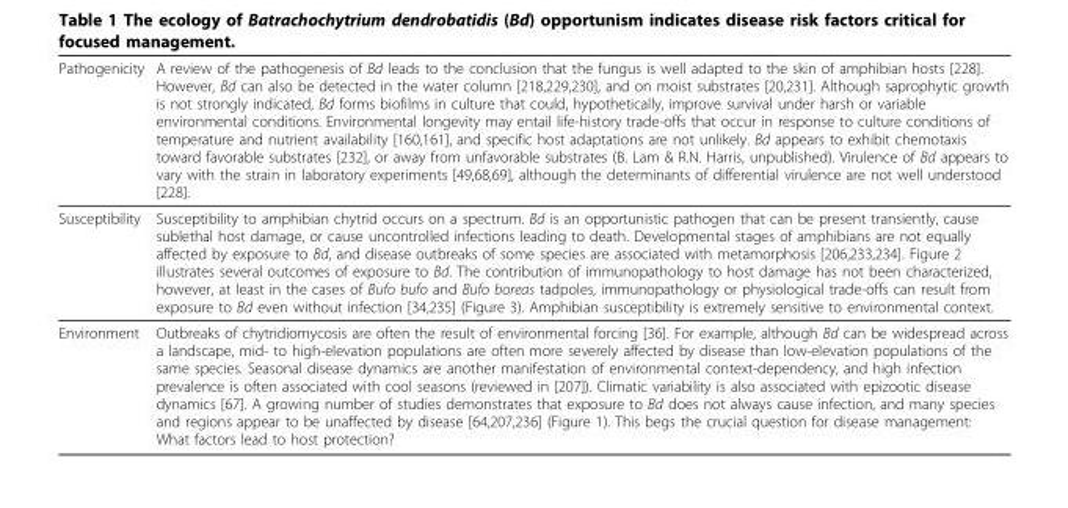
<table><thead><tr><td>Pathogenicity</td><td>A review of the pathogenesis of Bd leads to the conclusion that the fungus is well adapted to the skin of amphibian hosts [228]. However, Bd can also be detected in the water column [218,229,230], and on moist substrates [20,231]. Although saprophytic growth is not strongly indicated, Bd forms biofilms in culture that could, hypothetically, improve survival under harsh or variable environmental conditions. Environmental longevity may entail life-history trade-offs that occur in response to culture conditions of temperature and nutrient availability [160,161], and specific host adaptations are not unlikely. Bd appears to exhibit chemotaxis toward favorable substrates [232], or away from unfavorable substrates (B. Lam &amp; R.N. Harris, unpublished). Virulence of Bd appears to vary with the strain in laboratory experiments [49,68,69], although the determinants of differential virulence are not well understood [228].</td></tr></thead><tbody><tr><td>Susceptibility</td><td>Susceptibility to amphibian chytrid occurs on a spectrum. Bd is an opportunistic pathogen that can be present transiently, cause sublethal host damage, or cause uncontrolled infections leading to death. Developmental stages of amphibians are not equally affected by exposure to Bd, and disease outbreaks of some species are associated with metamorphosis [206,233,234]. Figure 2 illustrates several outcomes of exposure to Bd. The contribution of immunopathology to host damage has not been characterized, however, at least in the cases of Bufo bufo and Bufo boreas tadpoles, immunopathology or physiological trade-offs can result from exposure to Bd even without infection [34,235] (Figure 3). Amphibian susceptibility is extremely sensitive to environmental context.</td></tr><tr><td>Environment</td><td>Outbreaks of chytridiomycosis are often the result of environmental forcing [36]. For example, although Bd can be widespread across a landscape, mid- to high-elevation populations are often more severely affected by disease than low-elevation populations of the same species. Seasonal disease dynamics are another manifestation of environmental context-dependency, and high infection prevalence is often associated with cool seasons (reviewed in [207]). Climatic variability is also associated with epizootic disease dynamics [67]. A growing number of studies demonstrates that exposure to Bd does not always cause infection, and many species and regions appear to be unaffected by disease [64,207,236] (Figure 1). This begs the crucial question for disease management: What factors lead to host protection?</td></tr></tbody></table>